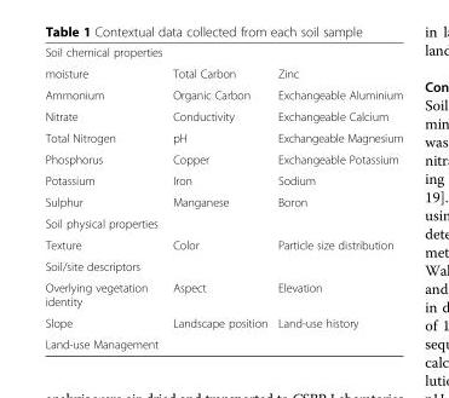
<table><tbody><tr><td colspan="3">Soil chemical properties</td></tr><tr><td>moisture</td><td>Total Carbon</td><td>Zinc</td></tr><tr><td>Ammonium</td><td>Organic Carbon</td><td>Exchangeable Aluminium</td></tr><tr><td>Nitrate</td><td>Conductivity</td><td>Exchangeable Calcium</td></tr><tr><td>Total Nitrogen</td><td>pH</td><td>Exchangeable Magnesium</td></tr><tr><td>Phosphorus</td><td>Copper</td><td>Exchangeable Potassium</td></tr><tr><td>Potassium</td><td>Iron</td><td>Sodium</td></tr><tr><td>Sulphur</td><td>Manganese</td><td>Boron</td></tr><tr><td colspan="3">Soil physical properties</td></tr><tr><td>Texture</td><td>Color</td><td>Particle size distribution</td></tr><tr><td colspan="3">Soil/site descriptors</td></tr><tr><td>Overlying vegetation identity</td><td>Aspect</td><td>Elevation</td></tr><tr><td>Slope</td><td>Landscape position</td><td>Land-use history</td></tr><tr><td>Land-use Management</td><td></td><td></td></tr></tbody></table>